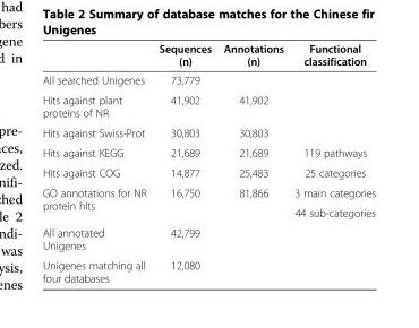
<table><thead><tr><td></td><td>Sequences (n)</td><td>Annotations (n)</td><td>Functional classification</td></tr></thead><tbody><tr><td>All searched Unigenes</td><td>73,779</td><td></td><td></td></tr><tr><td>Hits against plant proteins of NR</td><td>41,902</td><td>41,902</td><td></td></tr><tr><td>Hits against Swiss-Prot</td><td>30,803</td><td>30,803</td><td></td></tr><tr><td>Hits against KEGG</td><td>21,689</td><td>21,689</td><td>119 pathways</td></tr><tr><td>Hits against COG</td><td>14,877</td><td>25,483</td><td>25 categories</td></tr><tr><td rowspan="2">GO annotations for NR protein hits</td><td rowspan="2">16,750</td><td rowspan="2">81,866</td><td>3 main categories</td></tr><tr><td>44 sub-categories</td></tr><tr><td>All annotated Unigenes</td><td>42,799</td><td></td><td></td></tr><tr><td>Unigenes matching all four databases</td><td>12,080</td><td></td><td></td></tr></tbody></table>